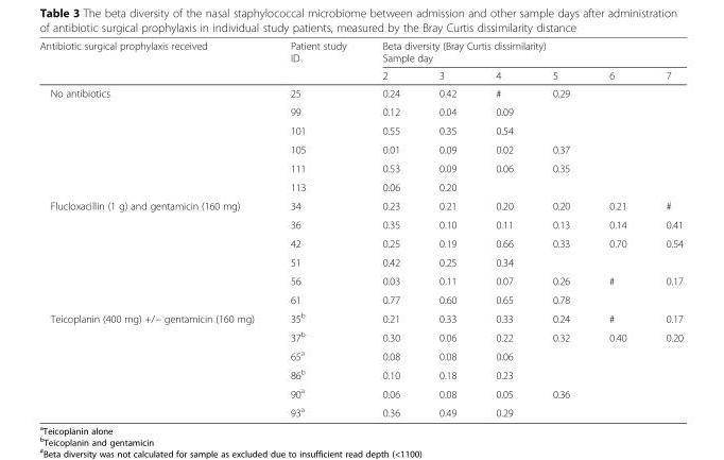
<table><thead><tr><td rowspan="2">Antibiotic surgical prophylaxis received</td><td rowspan="2">Patient study ID</td><td colspan="6">Beta diversity (Bray Curtis dissimilarity) Sample day</td></tr><tr><td>2</td><td>3</td><td>4</td><td>5</td><td>6</td><td>7</td></tr></thead><tbody><tr><td rowspan="6">No antibiotics</td><td>25</td><td>0.24</td><td>0.42</td><td>#</td><td>0.29</td><td></td><td></td></tr><tr><td>99</td><td>0.12</td><td>0.04</td><td>0.09</td><td></td><td></td><td></td></tr><tr><td>101</td><td>0.55</td><td>0.35</td><td>0.54</td><td></td><td></td><td></td></tr><tr><td>105</td><td>0.01</td><td>0.09</td><td>0.02</td><td>0.37</td><td></td><td></td></tr><tr><td>111</td><td>0.53</td><td>0.09</td><td>0.06</td><td>0.35</td><td></td><td></td></tr><tr><td>113</td><td>0.06</td><td>0.20</td><td></td><td></td><td></td><td></td></tr><tr><td rowspan="6">Flucloxacillin (1 g) and gentamicin (160 mg)</td><td>34</td><td>0.23</td><td>0.21</td><td>0.20</td><td>0.20</td><td>0.21</td><td>#</td></tr><tr><td>36</td><td>0.35</td><td>0.10</td><td>0.11</td><td>0.13</td><td>0.14</td><td>0.41</td></tr><tr><td>42</td><td>0.25</td><td>0.19</td><td>0.66</td><td>0.33</td><td>0.70</td><td>0.54</td></tr><tr><td>51</td><td>0.42</td><td>0.25</td><td>0.34</td><td></td><td></td><td></td></tr><tr><td>56</td><td>0.03</td><td>0.11</td><td>0.07</td><td>0.26</td><td>#</td><td>0.17</td></tr><tr><td>61</td><td>0.77</td><td>0.60</td><td>0.65</td><td>0.78</td><td></td><td></td></tr><tr><td rowspan="6">Teicoplanin (400 mg) +/− gentamicin (160 mg)</td><td>35<sup>b</sup></td><td>0.21</td><td>0.33</td><td>0.33</td><td>0.24</td><td>#</td><td>0.17</td></tr><tr><td>37<sup>b</sup></td><td>0.30</td><td>0.06</td><td>0.22</td><td>0.32</td><td>0.40</td><td>0.20</td></tr><tr><td>65<sup>a</sup></td><td>0.08</td><td>0.08</td><td>0.06</td><td></td><td></td><td></td></tr><tr><td>86<sup>b</sup></td><td>0.10</td><td>0.18</td><td>0.23</td><td></td><td></td><td></td></tr><tr><td>90<sup>a</sup></td><td>0.06</td><td>0.08</td><td>0.05</td><td>0.36</td><td></td><td></td></tr><tr><td>93<sup>a</sup></td><td>0.36</td><td>0.49</td><td>0.29</td><td></td><td></td><td></td></tr></tbody></table>